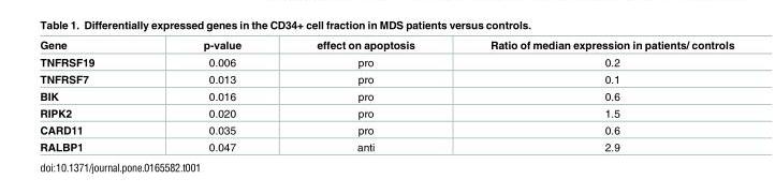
<table><thead><tr><td>Gene</td><td>p-value</td><td>effect on apoptosis</td><td>Ratio of median expression in patients/ controls</td></tr></thead><tbody><tr><td>TNFRSF19</td><td>0.006</td><td>pro</td><td>0.2</td></tr><tr><td>TNFRSF7</td><td>0.013</td><td>pro</td><td>0.1</td></tr><tr><td>BIK</td><td>0.016</td><td>pro</td><td>0.6</td></tr><tr><td>RIPK2</td><td>0.020</td><td>pro</td><td>1.5</td></tr><tr><td>CARD11</td><td>0.035</td><td>pro</td><td>0.6</td></tr><tr><td>RALBP1</td><td>0.047</td><td>anti</td><td>2.9</td></tr></tbody></table>